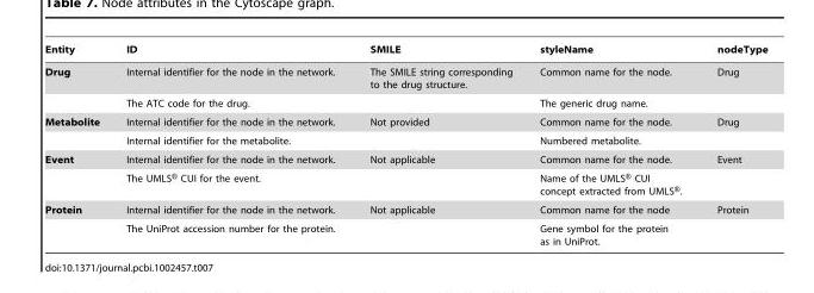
<table><thead><tr><td>Entity</td><td>ID</td><td>SMILE</td><td>styleName</td><td>nodeType</td></tr></thead><tbody><tr><td rowspan="2">Drug</td><td>Internal identifier for the node in the network.</td><td>The SMILE string corresponding to the drug structure.</td><td>Common name for the node.</td><td>Drug</td></tr><tr><td>The ATC code for the drug.</td><td></td><td>The generic drug name.</td><td></td></tr><tr><td rowspan="2">Metabolite</td><td>Internal identifier for the node in the network.</td><td>Not provided</td><td>Common name for the node.</td><td>Drug</td></tr><tr><td>Internal identifier for the metabolite.</td><td></td><td>Numbered metabolite.</td><td></td></tr><tr><td rowspan="2">Event</td><td>Internal identifier for the node in the network.</td><td>Not applicable</td><td>Common name for the node.</td><td>Event</td></tr><tr><td>The UMLS® CUI for the event.</td><td></td><td>Name of the UMLS® CUI concept extracted from UMLS®.</td><td></td></tr><tr><td rowspan="2">Protein</td><td>Internal identifier for the node in the network.</td><td>Not applicable</td><td>Common name for the node</td><td>Protein</td></tr><tr><td>The UniProt accession number for the protein.</td><td></td><td>Gene symbol for the protein as in UniProt.</td><td></td></tr></tbody></table>